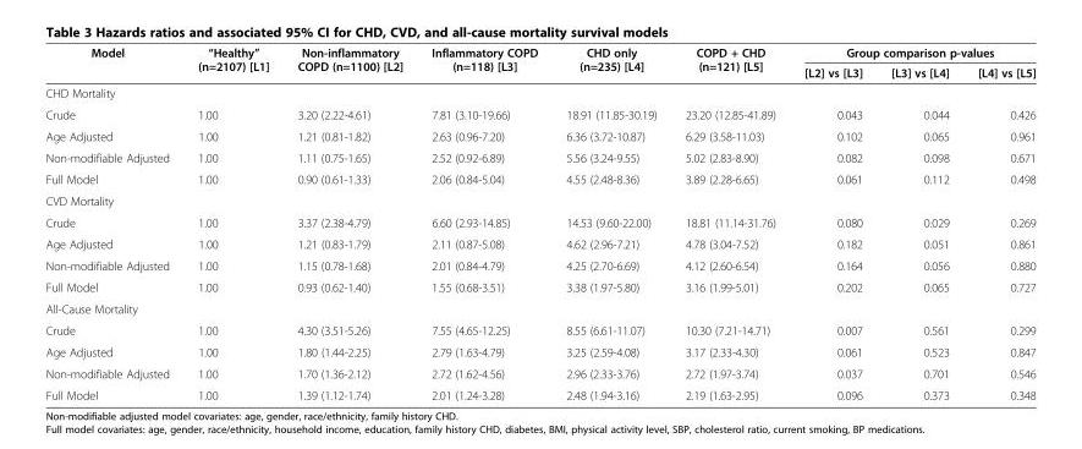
<table><thead><tr><td rowspan="2">Model</td><td rowspan="2">“Healthy” (n=2107) [L1]</td><td rowspan="2">Non-inflammatory COPD (n=1100) [L2]</td><td rowspan="2">Inflammatory COPD (n=118) [L3]</td><td rowspan="2">CHD only (n=235) [L4]</td><td rowspan="2">COPD + CHD (n=121) [L5]</td><td colspan="3">Group comparison p-values</td></tr><tr><td>[L2] vs [L3]</td><td>[L3] vs [L4]</td><td>[L4] vs [L5]</td></tr></thead><tbody><tr><td colspan="9">CHD Mortality</td></tr><tr><td>Crude</td><td>1.00</td><td>3.20 (2.22-4.61)</td><td>7.81 (3.10-19.66)</td><td>18.91 (11.85-30.19)</td><td>23.20 (12.85-41.89)</td><td>0.043</td><td>0.044</td><td>0.426</td></tr><tr><td>Age Adjusted</td><td>1.00</td><td>1.21 (0.81-1.82)</td><td>2.63 (0.96-7.20)</td><td>6.36 (3.72-10.87)</td><td>6.29 (3.58-11.03)</td><td>0.102</td><td>0.065</td><td>0.961</td></tr><tr><td>Non-modifiable Adjusted</td><td>1.00</td><td>1.11 (0.75-1.65)</td><td>2.52 (0.92-6.89)</td><td>5.56 (3.24-9.55)</td><td>5.02 (2.83-8.90)</td><td>0.082</td><td>0.098</td><td>0.671</td></tr><tr><td>Full Model</td><td>1.00</td><td>0.90 (0.61-1.33)</td><td>2.06 (0.84-5.04)</td><td>4.55 (2.48-8.36)</td><td>3.89 (2.28-6.65)</td><td>0.061</td><td>0.112</td><td>0.498</td></tr><tr><td colspan="9">CVD Mortality</td></tr><tr><td>Crude</td><td>1.00</td><td>3.37 (2.38-4.79)</td><td>6.60 (2.93-14.85)</td><td>14.53 (9.60-22.00)</td><td>18.81 (11.14-31.76)</td><td>0.080</td><td>0.029</td><td>0.269</td></tr><tr><td>Age Adjusted</td><td>1.00</td><td>1.21 (0.83-1.79)</td><td>2.11 (0.87-5.08)</td><td>4.62 (2.96-7.21)</td><td>4.78 (3.04-7.52)</td><td>0.182</td><td>0.051</td><td>0.861</td></tr><tr><td>Non-modifiable Adjusted</td><td>1.00</td><td>1.15 (0.78-1.68)</td><td>2.01 (0.84-4.79)</td><td>4.25 (2.70-6.69)</td><td>4.12 (2.60-6.54)</td><td>0.164</td><td>0.056</td><td>0.880</td></tr><tr><td>Full Model</td><td>1.00</td><td>0.93 (0.62-1.40)</td><td>1.55 (0.68-3.51)</td><td>3.38 (1.97-5.80)</td><td>3.16 (1.99-5.01)</td><td>0.202</td><td>0.065</td><td>0.727</td></tr><tr><td colspan="9">All-Cause Mortality</td></tr><tr><td>Crude</td><td>1.00</td><td>4.30 (3.51-5.26)</td><td>7.55 (4.65-12.25)</td><td>8.55 (6.61-11.07)</td><td>10.30 (7.21-14.71)</td><td>0.007</td><td>0.561</td><td>0.299</td></tr><tr><td>Age Adjusted</td><td>1.00</td><td>1.80 (1.44-2.25)</td><td>2.79 (1.63-4.79)</td><td>3.25 (2.59-4.08)</td><td>3.17 (2.33-4.30)</td><td>0.061</td><td>0.523</td><td>0.847</td></tr><tr><td>Non-modifiable Adjusted</td><td>1.00</td><td>1.70 (1.36-2.12)</td><td>2.72 (1.62-4.56)</td><td>2.96 (2.33-3.76)</td><td>2.72 (1.97-3.74)</td><td>0.037</td><td>0.701</td><td>0.546</td></tr><tr><td>Full Model</td><td>1.00</td><td>1.39 (1.12-1.74)</td><td>2.01 (1.24-3.28)</td><td>2.48 (1.94-3.16)</td><td>2.19 (1.63-2.95)</td><td>0.096</td><td>0.373</td><td>0.348</td></tr></tbody></table>